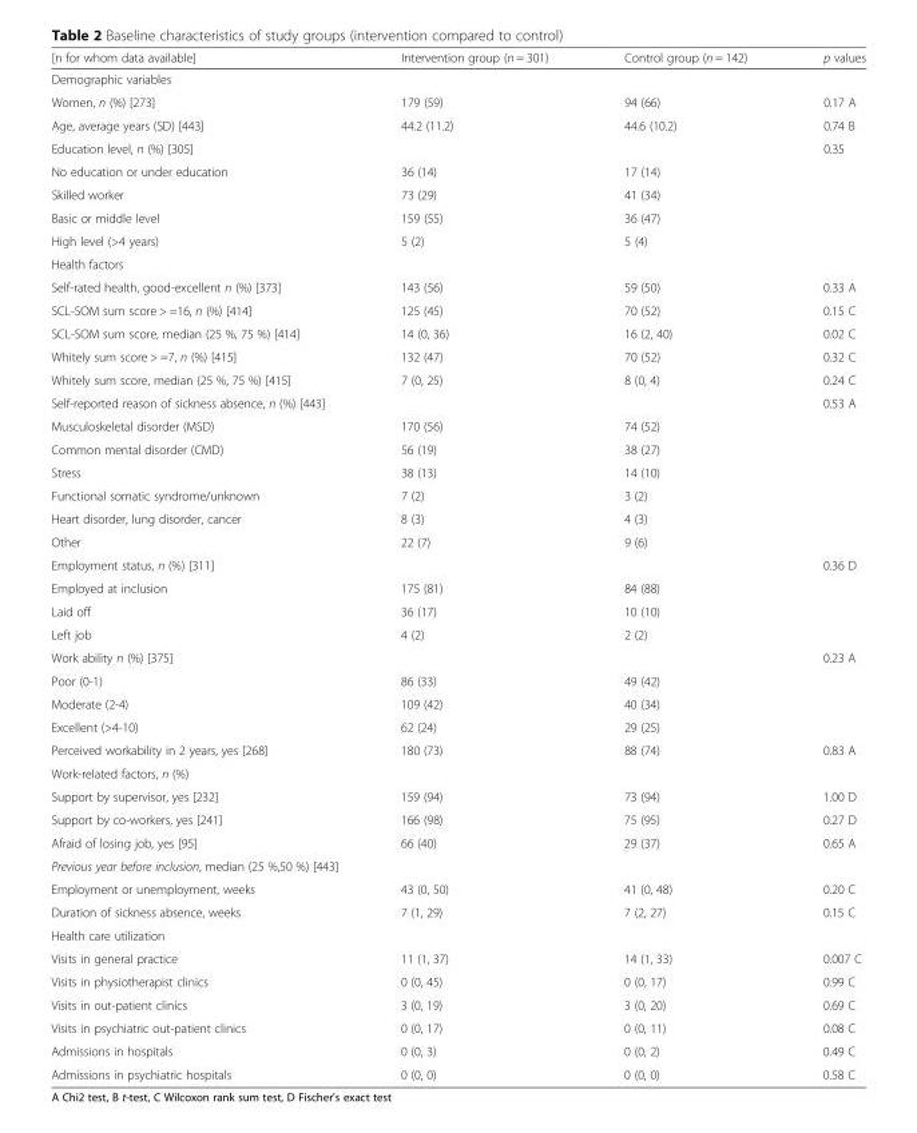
<table><thead><tr><td>[n for whom data available]</td><td>Intervention group (n = 301)</td><td>Control group (n = 142)</td><td>p values</td></tr></thead><tbody><tr><td colspan="4">Demographic variables</td></tr><tr><td>Women, n (%) [273]</td><td>179 (59)</td><td>94 (66)</td><td>0.17 A</td></tr><tr><td>Age, average years (SD) [443]</td><td>44.2 (11.2)</td><td>44.6 (10.2)</td><td>0.74 B</td></tr><tr><td>Education level, n (%) [305]</td><td></td><td></td><td>0.35</td></tr><tr><td>No education or under education</td><td>36 (14)</td><td>17 (14)</td><td></td></tr><tr><td>Skilled worker</td><td>73 (29)</td><td>41 (34)</td><td></td></tr><tr><td>Basic or middle level</td><td>159 (55)</td><td>36 (47)</td><td></td></tr><tr><td>High level (&gt;4 years)</td><td>5 (2)</td><td>5 (4)</td><td></td></tr><tr><td colspan="4">Health factors</td></tr><tr><td>Self-rated health, good-excellent n (%) [373]</td><td>143 (56)</td><td>59 (50)</td><td>0.33 A</td></tr><tr><td>SCL-SOM sum score &gt; =16, n (%) [414]</td><td>125 (45)</td><td>70 (52)</td><td>0.15 C</td></tr><tr><td>SCL-SOM sum score, median (25 %, 75 %) [414]</td><td>14 (0, 36)</td><td>16 (2, 40)</td><td>0.02 C</td></tr><tr><td>Whitely sum score &gt; =7, n (%) [415]</td><td>132 (47)</td><td>70 (52)</td><td>0.32 C</td></tr><tr><td>Whitely sum score, median (25 %, 75 %) [415]</td><td>7 (0, 25)</td><td>8 (0, 4)</td><td>0.24 C</td></tr><tr><td>Self-reported reason of sickness absence, n (%) [443]</td><td></td><td></td><td>0.53 A</td></tr><tr><td>Musculoskeletal disorder (MSD)</td><td>170 (56)</td><td>74 (52)</td><td></td></tr><tr><td>Common mental disorder (CMD)</td><td>56 (19)</td><td>38 (27)</td><td></td></tr><tr><td>Stress</td><td>38 (13)</td><td>14 (10)</td><td></td></tr><tr><td>Functional somatic syndrome/unknown</td><td>7 (2)</td><td>3 (2)</td><td></td></tr><tr><td>Heart disorder, lung disorder, cancer</td><td>8 (3)</td><td>4 (3)</td><td></td></tr><tr><td>Other</td><td>22 (7)</td><td>9 (6)</td><td></td></tr><tr><td>Employment status, n (%) [311]</td><td></td><td></td><td>0.36 D</td></tr><tr><td>Employed at inclusion</td><td>175 (81)</td><td>84 (88)</td><td></td></tr><tr><td>Laid off</td><td>36 (17)</td><td>10 (10)</td><td></td></tr><tr><td>Left job</td><td>4 (2)</td><td>2 (2)</td><td></td></tr><tr><td>Work ability n (%) [375]</td><td></td><td></td><td>0.23 A</td></tr><tr><td>Poor (0-1)</td><td>86 (33)</td><td>49 (42)</td><td></td></tr><tr><td>Moderate (2-4)</td><td>109 (42)</td><td>40 (34)</td><td></td></tr><tr><td>Excellent (&gt;4-10)</td><td>62 (24)</td><td>29 (25)</td><td></td></tr><tr><td>Perceived workability in 2 years, yes [268]</td><td>180 (73)</td><td>88 (74)</td><td>0.83 A</td></tr><tr><td colspan="4">Work-related factors, n (%)</td></tr><tr><td>Support by supervisor, yes [232]</td><td>159 (94)</td><td>73 (94)</td><td>1.00 D</td></tr><tr><td>Support by co-workers, yes [241]</td><td>166 (98)</td><td>75 (95)</td><td>0.27 D</td></tr><tr><td>Afraid of losing job, yes [95]</td><td>66 (40)</td><td>29 (37)</td><td>0.65 A</td></tr><tr><td colspan="4">Previous year before inclusion, median (25 %,50 %) [443]</td></tr><tr><td>Employment or unemployment, weeks</td><td>43 (0, 50)</td><td>41 (0, 48)</td><td>0.20 C</td></tr><tr><td>Duration of sickness absence, weeks</td><td>7 (1, 29)</td><td>7 (2, 27)</td><td>0.15 C</td></tr><tr><td colspan="4">Health care utilization</td></tr><tr><td>Visits in general practice</td><td>11 (1, 37)</td><td>14 (1, 33)</td><td>0.007 C</td></tr><tr><td>Visits in physiotherapist clinics</td><td>0 (0, 45)</td><td>0 (0, 17)</td><td>0.99 C</td></tr><tr><td>Visits in out-patient clinics</td><td>3 (0, 19)</td><td>3 (0, 20)</td><td>0.69 C</td></tr><tr><td>Visits in psychiatric out-patient clinics</td><td>0 (0, 17)</td><td>0 (0, 11)</td><td>0.08 C</td></tr><tr><td>Admissions in hospitals</td><td>0 (0, 3)</td><td>0 (0, 2)</td><td>0.49 C</td></tr><tr><td>Admissions in psychiatric hospitals</td><td>0 (0, 0)</td><td>0 (0, 0)</td><td>0.58 C</td></tr></tbody></table>